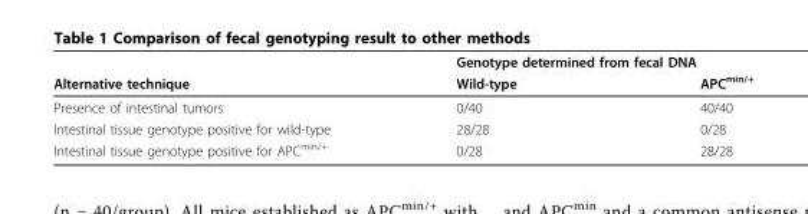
<table><thead><tr><td rowspan="2">Alternative technique</td><td colspan="2">Genotype determined from fecal DNA</td></tr><tr><td>Wild-type</td><td>APC<sup>min/+</sup></td></tr></thead><tbody><tr><td>Presence of intestinal tumors</td><td>0/40</td><td>40/40</td></tr><tr><td>Intestinal tissue genotype positive for wild-type</td><td>28/28</td><td>0/28</td></tr><tr><td>Intestinal tissue genotype positive for APC<sup>min/+</sup></td><td>0/28</td><td>28/28</td></tr></tbody></table>